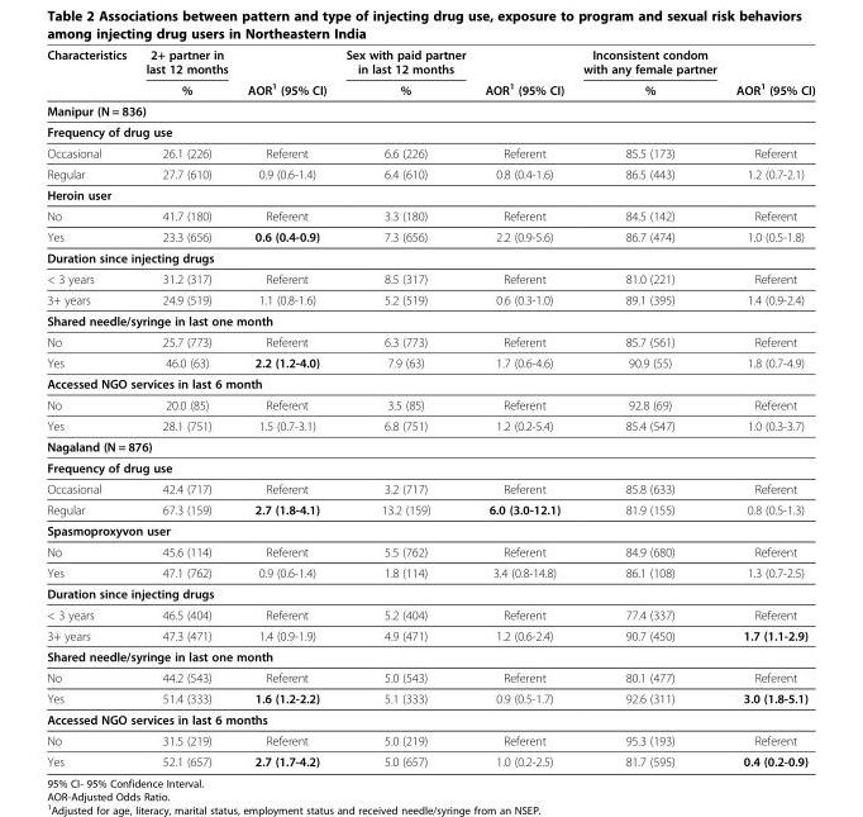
<table><thead><tr><td rowspan="2">Characteristics</td><td rowspan="2">2+ partner in last 12 months %</td><td rowspan="2">AOR<sup>1</sup> (95% CI)</td><td rowspan="2">Sex with paid partner in last 12 months %</td><td rowspan="2">AOR<sup>1</sup> (95% CI)</td><td rowspan="2">Inconsistent condom with any female partner %</td><td rowspan="2">AOR<sup>1</sup> (95% CI)</td></tr><tr></tr></thead><tbody><tr><td colspan="7">Manipur (N = 836)</td></tr><tr><td colspan="7">Frequency of drug use</td></tr><tr><td>Occasional</td><td>26.1 (226)</td><td>Referent</td><td>6.6 (226)</td><td>Referent</td><td>85.5 (173)</td><td>Referent</td></tr><tr><td>Regular</td><td>27.7 (610)</td><td>0.9 (0.6-1.4)</td><td>6.4 (610)</td><td>0.8 (0.4-1.6)</td><td>86.5 (443)</td><td>1.2 (0.7-2.1)</td></tr><tr><td colspan="7">Heroin user</td></tr><tr><td>No</td><td>41.7 (180)</td><td>Referent</td><td>3.3 (180)</td><td>Referent</td><td>84.5 (142)</td><td>Referent</td></tr><tr><td>Yes</td><td>23.3 (656)</td><td>0.6 (0.4-0.9)</td><td>7.3 (656)</td><td>2.2 (0.9-5.6)</td><td>86.7 (474)</td><td>1.0 (0.5-1.8)</td></tr><tr><td colspan="7">Duration since injecting drugs</td></tr><tr><td>&lt; 3 years</td><td>31.2 (317)</td><td>Referent</td><td>8.5 (317)</td><td>Referent</td><td>81.0 (221)</td><td>Referent</td></tr><tr><td>3+ years</td><td>24.9 (519)</td><td>1.1 (0.8-1.6)</td><td>5.2 (519)</td><td>0.6 (0.3-1.0)</td><td>89.1 (395)</td><td>1.4 (0.9-2.4)</td></tr><tr><td colspan="7">Shared needle/syringe in last one month</td></tr><tr><td>No</td><td>25.7 (773)</td><td>Referent</td><td>6.3 (773)</td><td>Referent</td><td>85.7 (561)</td><td>Referent</td></tr><tr><td>Yes</td><td>46.0 (63)</td><td>2.2 (1.2-4.0)</td><td>7.9 (63)</td><td>1.7 (0.6-4.6)</td><td>90.9 (55)</td><td>1.8 (0.7-4.9)</td></tr><tr><td colspan="7">Accessed NGO services in last 6 month</td></tr><tr><td>No</td><td>20.0 (85)</td><td>Referent</td><td>3.5 (85)</td><td>Referent</td><td>92.8 (69)</td><td>Referent</td></tr><tr><td>Yes</td><td>28.1 (751)</td><td>1.5 (0.7-3.1)</td><td>6.8 (751)</td><td>1.2 (0.2-5.4)</td><td>85.4 (547)</td><td>1.0 (0.3-3.7)</td></tr><tr><td colspan="7">Nagaland (N = 876)</td></tr><tr><td colspan="7">Frequency of drug use</td></tr><tr><td>Occasional</td><td>42.4 (717)</td><td>Referent</td><td>3.2 (717)</td><td>Referent</td><td>85.8 (633)</td><td>Referent</td></tr><tr><td>Regular</td><td>67.3 (159)</td><td>2.7 (1.8-4.1)</td><td>13.2 (159)</td><td>6.0 (3.0-12.1)</td><td>81.9 (155)</td><td>0.8 (0.5-1.3)</td></tr><tr><td colspan="7">Spasmoproxyvon user</td></tr><tr><td>No</td><td>45.6 (114)</td><td>Referent</td><td>5.5 (762)</td><td>Referent</td><td>84.9 (680)</td><td>Referent</td></tr><tr><td>Yes</td><td>47.1 (762)</td><td>0.9 (0.6-1.4)</td><td>1.8 (114)</td><td>3.4 (0.8-14.8)</td><td>86.1 (108)</td><td>1.3 (0.7-2.5)</td></tr><tr><td colspan="7">Duration since injecting drugs</td></tr><tr><td>&lt; 3 years</td><td>46.5 (404)</td><td>Referent</td><td>5.2 (404)</td><td>Referent</td><td>77.4 (337)</td><td>Referent</td></tr><tr><td>3+ years</td><td>47.3 (471)</td><td>1.4 (0.9-1.9)</td><td>4.9 (471)</td><td>1.2 (0.6-2.4)</td><td>90.7 (450)</td><td>1.7 (1.1-2.9)</td></tr><tr><td colspan="7">Shared needle/syringe in last one month</td></tr><tr><td>No</td><td>44.2 (543)</td><td>Referent</td><td>5.0 (543)</td><td>Referent</td><td>80.1 (477)</td><td>Referent</td></tr><tr><td>Yes</td><td>51.4 (333)</td><td>1.6 (1.2-2.2)</td><td>5.1 (333)</td><td>0.9 (0.5-1.7)</td><td>92.6 (311)</td><td>3.0 (1.8-5.1)</td></tr><tr><td colspan="7">Accessed NGO services in last 6 months</td></tr><tr><td>No</td><td>31.5 (219)</td><td>Referent</td><td>5.0 (219)</td><td>Referent</td><td>95.3 (193)</td><td>Referent</td></tr><tr><td>Yes</td><td>52.1 (657)</td><td>2.7 (1.7-4.2)</td><td>5.0 (657)</td><td>1.0 (0.2-2.5)</td><td>81.7 (595)</td><td>0.4 (0.2-0.9)</td></tr></tbody></table>